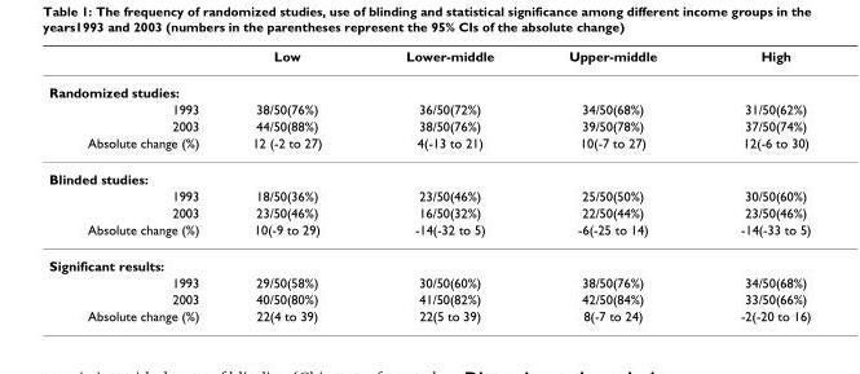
<table><thead><tr><td></td><td>Low</td><td>Lower-middle</td><td>Upper-middle</td><td>High</td></tr></thead><tbody><tr><td colspan="5">Randomized studies:</td></tr><tr><td>1993</td><td>38/50(76%)</td><td>36/50(72%)</td><td>34/50(68%)</td><td>31/50(62%)</td></tr><tr><td>2003</td><td>44/50(88%)</td><td>38/50(76%)</td><td>39/50(78%)</td><td>37/50(74%)</td></tr><tr><td>Absolute change (%)</td><td>12 (-2 to 27)</td><td>4(-13 to 21)</td><td>10(-7 to 27)</td><td>12(-6 to 30)</td></tr><tr><td colspan="5">Blinded studies:</td></tr><tr><td>1993</td><td>18/50(36%)</td><td>23/50(46%)</td><td>25/50(50%)</td><td>30/50(60%)</td></tr><tr><td>2003</td><td>23/50(46%)</td><td>16/50(32%)</td><td>22/50(44%)</td><td>23/50(46%)</td></tr><tr><td>Absolute change (%)</td><td>10(-9 to 29)</td><td>-14(-32 to 5)</td><td>-6(-25 to 14)</td><td>-14(-33 to 5)</td></tr><tr><td colspan="5">Significant results:</td></tr><tr><td>1993</td><td>29/50(58%)</td><td>30/50(60%)</td><td>38/50(76%)</td><td>34/50(68%)</td></tr><tr><td>2003</td><td>40/50(80%)</td><td>41/50(82%)</td><td>42/50(84%)</td><td>33/50(66%)</td></tr><tr><td>Absolute change (%)</td><td>22(4 to 39)</td><td>22(5 to 39)</td><td>8(-7 to 24)</td><td>-2(-20 to 16)</td></tr></tbody></table>